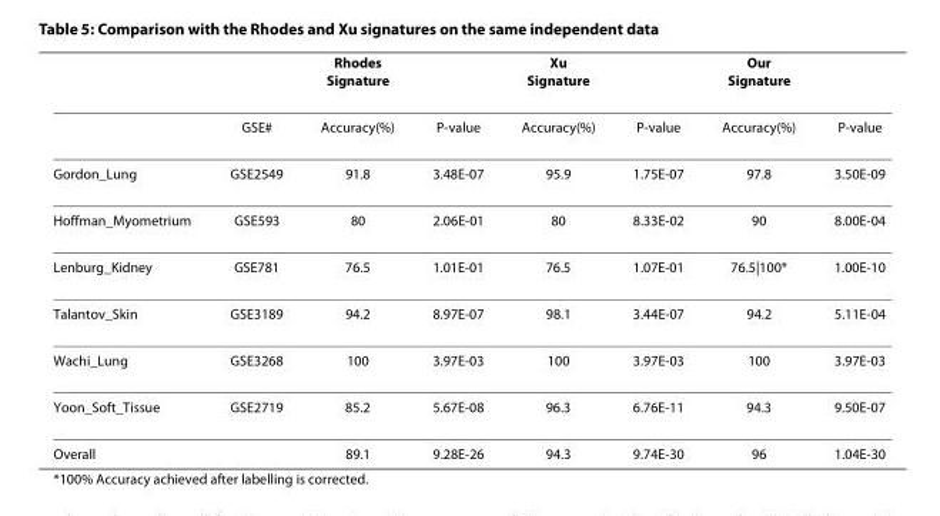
<table><thead><tr><td></td><td></td><td>Rhodes Signature</td><td></td><td>Xu Signature</td><td></td><td>Our Signature</td><td></td></tr></thead><tbody><tr><td></td><td>GSE#</td><td>Accuracy(%)</td><td>P-value</td><td>Accuracy(%)</td><td>P-value</td><td>Accuracy(%)</td><td>P-value</td></tr><tr><td>Gordon_Lung</td><td>GSE2549</td><td>91.8</td><td>3.48E-07</td><td>95.9</td><td>1.75E-07</td><td>97.8</td><td>3.50E-09</td></tr><tr><td>Hoffman_Myometrium</td><td>GSE593</td><td>80</td><td>2.06E-01</td><td>80</td><td>8.33E-02</td><td>90</td><td>8.00E-04</td></tr><tr><td>Lenburg_Kidney</td><td>GSE781</td><td>76.5</td><td>1.01E-01</td><td>76.5</td><td>1.07E-01</td><td>76.5|100*</td><td>1.00E-10</td></tr><tr><td>Talantov_Skin</td><td>GSE3189</td><td>94.2</td><td>8.97E-07</td><td>98.1</td><td>3.44E-07</td><td>94.2</td><td>5.11E-04</td></tr><tr><td>Wachi_Lung</td><td>GSE3268</td><td>100</td><td>3.97E-03</td><td>100</td><td>3.97E-03</td><td>100</td><td>3.97E-03</td></tr><tr><td>Yoon_Soft_Tissue</td><td>GSE2719</td><td>85.2</td><td>5.67E-08</td><td>96.3</td><td>6.76E-11</td><td>94.3</td><td>9.50E-07</td></tr><tr><td>Overall</td><td></td><td>89.1</td><td>9.28E-26</td><td>94.3</td><td>9.74E-30</td><td>96</td><td>1.04E-30</td></tr></tbody></table>